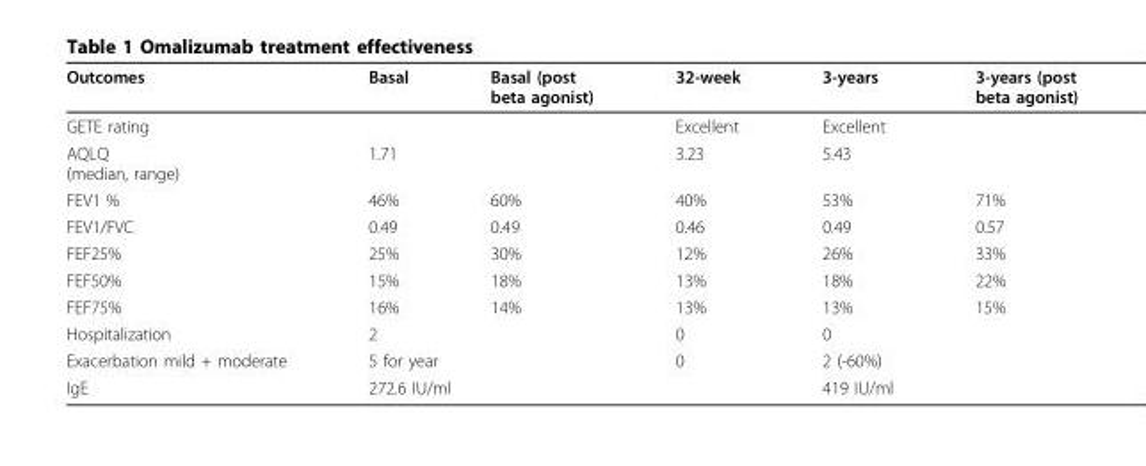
<table><thead><tr><td>Outcomes</td><td>Basal</td><td>Basal (post beta agonist)</td><td>32-week</td><td>3-years</td><td>3-years (post beta agonist)</td></tr></thead><tbody><tr><td>GETE rating</td><td></td><td></td><td>Excellent</td><td>Excellent</td><td></td></tr><tr><td>AQLQ (median, range)</td><td colspan="2">1.71</td><td>3.23</td><td>5.43</td><td></td></tr><tr><td>FEV1 %</td><td>46%</td><td>60%</td><td>40%</td><td>53%</td><td>71%</td></tr><tr><td>FEV1/FVC</td><td>0.49</td><td>0.49</td><td>0.46</td><td>0.49</td><td>0.57</td></tr><tr><td>FEF25%</td><td>25%</td><td>30%</td><td>12%</td><td>26%</td><td>33%</td></tr><tr><td>FEF50%</td><td>15%</td><td>18%</td><td>13%</td><td>18%</td><td>22%</td></tr><tr><td>FEF75%</td><td>16%</td><td>14%</td><td>13%</td><td>13%</td><td>15%</td></tr><tr><td>Hospitalization</td><td colspan="2">2</td><td>0</td><td>0</td><td></td></tr><tr><td>Exacerbation mild + moderate</td><td colspan="2">5 for year</td><td>0</td><td>2 (-60%)</td><td></td></tr><tr><td>IgE</td><td colspan="2">272.6 IU/ml</td><td></td><td>419 IU/ml</td><td></td></tr></tbody></table>